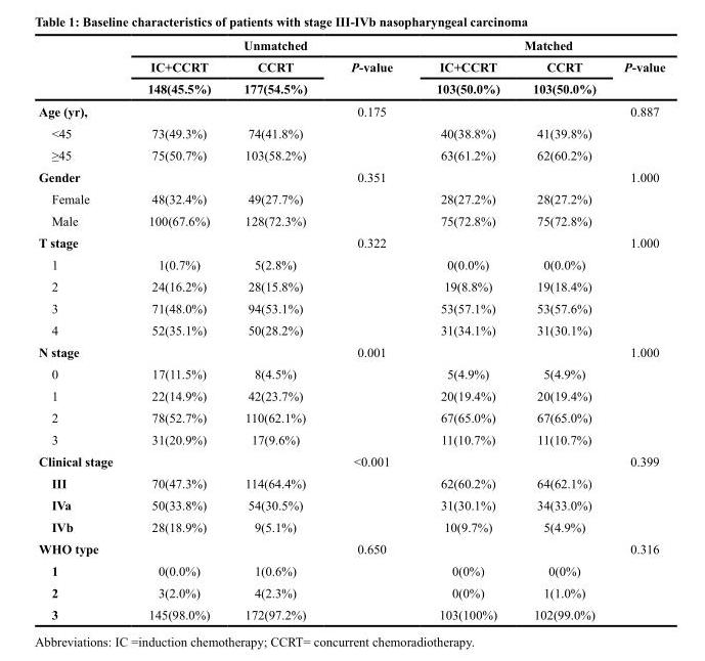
<table><thead><tr><td rowspan="3"></td><td colspan="3">Unmatched</td><td colspan="3">Matched</td></tr><tr><td rowspan="2">IC+CCRT 148(45.5%)</td><td rowspan="2">CCRT 177(54.5%)</td><td rowspan="2">P-value</td><td rowspan="2">IC+CCRT 103(50.0%)</td><td rowspan="2">CCRT 103(50.0%)</td><td rowspan="2">P-value</td></tr><tr></tr></thead><tbody><tr><td>Age (yr),</td><td></td><td></td><td>0.175</td><td></td><td></td><td>0.887</td></tr><tr><td>&lt;45</td><td>73(49.3%)</td><td>74(41.8%)</td><td></td><td>40(38.8%)</td><td>41(39.8%)</td><td></td></tr><tr><td>≥45</td><td>75(50.7%)</td><td>103(58.2%)</td><td></td><td>63(61.2%)</td><td>62(60.2%)</td><td></td></tr><tr><td>Gender</td><td></td><td></td><td>0.351</td><td></td><td></td><td>1.000</td></tr><tr><td>Female</td><td>48(32.4%)</td><td>49(27.7%)</td><td></td><td>28(27.2%)</td><td>28(27.2%)</td><td></td></tr><tr><td>Male</td><td>100(67.6%)</td><td>128(72.3%)</td><td></td><td>75(72.8%)</td><td>75(72.8%)</td><td></td></tr><tr><td>T stage</td><td></td><td></td><td>0.322</td><td></td><td></td><td>1.000</td></tr><tr><td>1</td><td>1(0.7%)</td><td>5(2.8%)</td><td></td><td>0(0.0%)</td><td>0(0.0%)</td><td></td></tr><tr><td>2</td><td>24(16.2%)</td><td>28(15.8%)</td><td></td><td>19(8.8%)</td><td>19(18.4%)</td><td></td></tr><tr><td>3</td><td>71(48.0%)</td><td>94(53.1%)</td><td></td><td>53(57.1%)</td><td>53(57.6%)</td><td></td></tr><tr><td>4</td><td>52(35.1%)</td><td>50(28.2%)</td><td></td><td>31(34.1%)</td><td>31(30.1%)</td><td></td></tr><tr><td>N stage</td><td></td><td></td><td>0.001</td><td></td><td></td><td>1.000</td></tr><tr><td>0</td><td>17(11.5%)</td><td>8(4.5%)</td><td></td><td>5(4.9%)</td><td>5(4.9%)</td><td></td></tr><tr><td>1</td><td>22(14.9%)</td><td>42(23.7%)</td><td></td><td>20(19.4%)</td><td>20(19.4%)</td><td></td></tr><tr><td>2</td><td>78(52.7%)</td><td>110(62.1%)</td><td></td><td>67(65.0%)</td><td>67(65.0%)</td><td></td></tr><tr><td>3</td><td>31(20.9%)</td><td>17(9.6%)</td><td></td><td>11(10.7%)</td><td>11(10.7%)</td><td></td></tr><tr><td>Clinical stage</td><td></td><td></td><td>&lt;0.001</td><td></td><td></td><td>0.399</td></tr><tr><td>III</td><td>70(47.3%)</td><td>114(64.4%)</td><td></td><td>62(60.2%)</td><td>64(62.1%)</td><td></td></tr><tr><td>IVa</td><td>50(33.8%)</td><td>54(30.5%)</td><td></td><td>31(30.1%)</td><td>34(33.0%)</td><td></td></tr><tr><td>IVb</td><td>28(18.9%)</td><td>9(5.1%)</td><td></td><td>10(9.7%)</td><td>5(4.9%)</td><td></td></tr><tr><td>WHO type</td><td></td><td></td><td>0.650</td><td></td><td></td><td>0.316</td></tr><tr><td>1</td><td>0(0.0%)</td><td>1(0.6%)</td><td></td><td>0(0%)</td><td>0(0%)</td><td></td></tr><tr><td>2</td><td>3(2.0%)</td><td>4(2.3%)</td><td></td><td>0(0%)</td><td>1(1.0%)</td><td></td></tr><tr><td>3</td><td>145(98.0%)</td><td>172(97.2%)</td><td></td><td>103(100%)</td><td>102(99.0%)</td><td></td></tr></tbody></table>